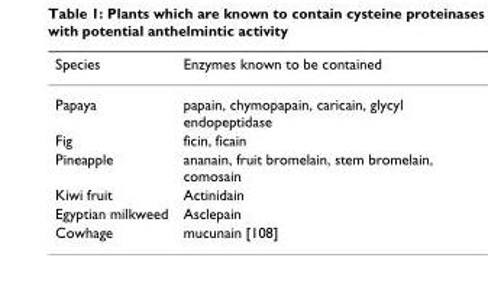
<table><thead><tr><td>Species</td><td>Enzymes known to be contained</td></tr></thead><tbody><tr><td>Papaya</td><td>papain, chymopapain, caricain, glycyl endopeptidase</td></tr><tr><td>Fig</td><td>ficin, ficain</td></tr><tr><td>Pineapple</td><td>ananain, fruit bromelain, stem bromelain, comosain</td></tr><tr><td>Kiwi fruit</td><td>Actinidain</td></tr><tr><td>Egyptian milkweed</td><td>Asclepain</td></tr><tr><td>Cowhage</td><td>mucunain [108]</td></tr></tbody></table>